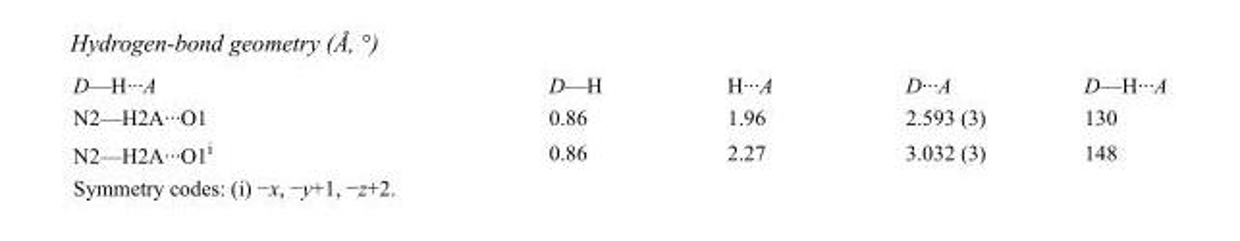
<table><tbody><tr><td>D—H···A</td><td>D—H</td><td>H···A</td><td>D···A</td><td>D—H···A</td></tr><tr><td>N2—H2A···O1</td><td>0.86</td><td>1.96</td><td>2.593 (3)</td><td>130</td></tr><tr><td>N2—H2A···O1<sup>i</sup></td><td>0.86</td><td>2.27</td><td>3.032 (3)</td><td>148</td></tr></tbody></table>